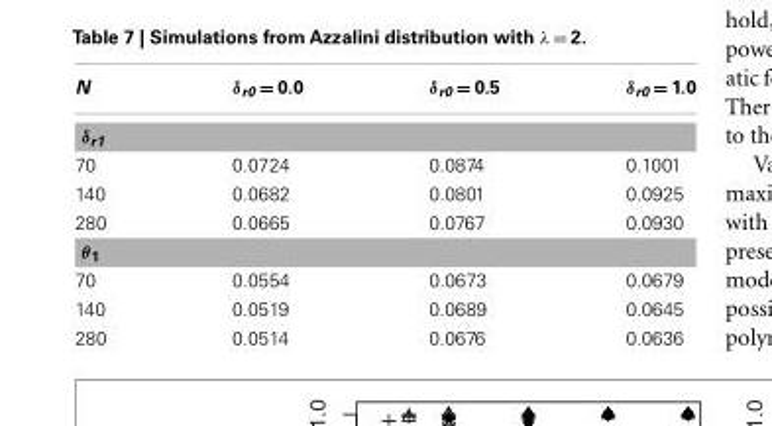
<table><thead><tr><td>N</td><td>δ<sub>r0</sub> = 0.0</td><td>δ<sub>r0</sub> = 0.5</td><td>δ<sub>r0</sub> = 1.0</td></tr></thead><tbody><tr><td colspan="4">δ<sub>r1</sub></td></tr><tr><td>70</td><td>0.0724</td><td>0.0874</td><td>0.1001</td></tr><tr><td>140</td><td>0.0682</td><td>0.0801</td><td>0.0925</td></tr><tr><td>280</td><td>0.0665</td><td>0.0767</td><td>0.0930</td></tr><tr><td colspan="4">θ<sub>1</sub></td></tr><tr><td>70</td><td>0.0554</td><td>0.0673</td><td>0.0679</td></tr><tr><td>140</td><td>0.0519</td><td>0.0689</td><td>0.0645</td></tr><tr><td>280</td><td>0.0514</td><td>0.0676</td><td>0.0636</td></tr></tbody></table>